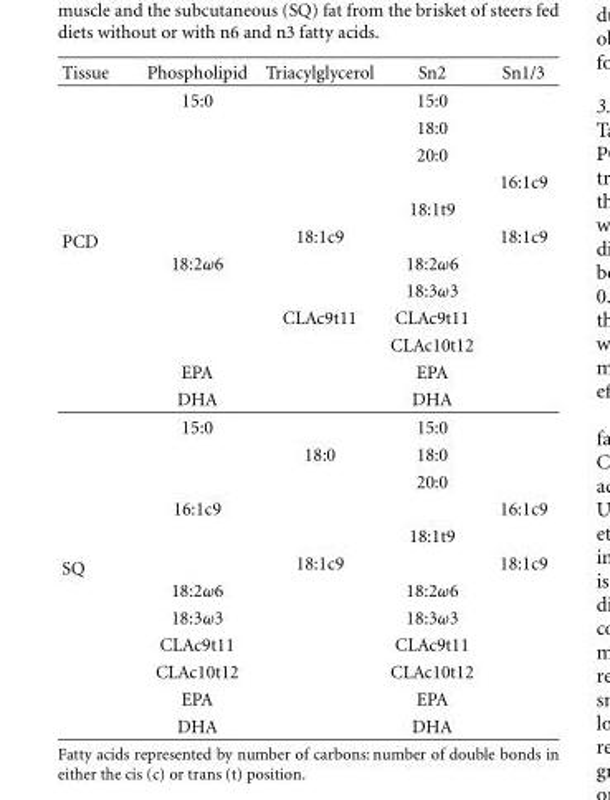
<table><thead><tr><td>Tissue</td><td>Phospholipid</td><td>Triacylglycerol</td><td>Sn2</td><td>Sn1/3</td></tr></thead><tbody><tr><td rowspan="12">PCD</td><td>15:0</td><td></td><td>15:0</td><td></td></tr><tr><td></td><td></td><td>18:0</td><td></td></tr><tr><td></td><td></td><td>20:0</td><td></td></tr><tr><td></td><td></td><td></td><td>16:1c9</td></tr><tr><td></td><td></td><td>18:1t9</td><td></td></tr><tr><td></td><td>18:1c9</td><td></td><td>18:1c9</td></tr><tr><td>18:2ω6</td><td></td><td>18:2ω6</td><td></td></tr><tr><td></td><td></td><td>18:3ω3</td><td></td></tr><tr><td></td><td>CLAc9t11</td><td>CLAc9t11</td><td></td></tr><tr><td></td><td></td><td>CLAc10t12</td><td></td></tr><tr><td>EPA</td><td></td><td>EPA</td><td></td></tr><tr><td>DHA</td><td></td><td>DHA</td><td></td></tr><tr><td rowspan="12">SQ</td><td>15:0</td><td></td><td>15:0</td><td></td></tr><tr><td></td><td>18:0</td><td>18:0</td><td></td></tr><tr><td></td><td></td><td>20:0</td><td></td></tr><tr><td>16:1c9</td><td></td><td></td><td>16:1c9</td></tr><tr><td></td><td></td><td>18:1t9</td><td></td></tr><tr><td></td><td>18:1c9</td><td></td><td>18:1c9</td></tr><tr><td>18:2ω6</td><td></td><td>18:2ω6</td><td></td></tr><tr><td>18:3ω3</td><td></td><td>18:3ω3</td><td></td></tr><tr><td>CLAc9t11</td><td></td><td>CLAc9t11</td><td></td></tr><tr><td>CLAc10t12</td><td></td><td>CLAc10t12</td><td></td></tr><tr><td>EPA</td><td></td><td>EPA</td><td></td></tr><tr><td>DHA</td><td></td><td>DHA</td><td></td></tr></tbody></table>